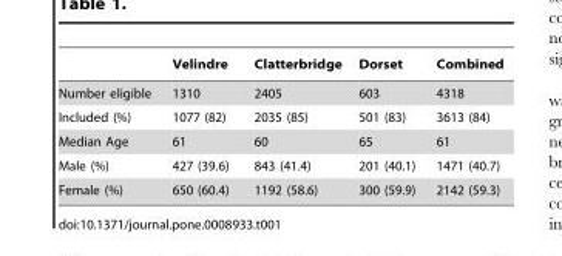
<table><thead><tr><td></td><td>Velindre</td><td>Clatterbridge</td><td>Dorset</td><td>Combined</td></tr></thead><tbody><tr><td>Number eligible</td><td>1310</td><td>2405</td><td>603</td><td>4318</td></tr><tr><td>Included (%)</td><td>1077 (82)</td><td>2035 (85)</td><td>501 (83)</td><td>3613 (84)</td></tr><tr><td>Median Age</td><td>61</td><td>60</td><td>65</td><td>61</td></tr><tr><td>Male (%)</td><td>427 (39.6)</td><td>843 (41.4)</td><td>201 (40.1)</td><td>1471 (40.7)</td></tr><tr><td>Female (%)</td><td>650 (60.4)</td><td>1192 (58.6)</td><td>300 (59.9)</td><td>2142 (59.3)</td></tr></tbody></table>